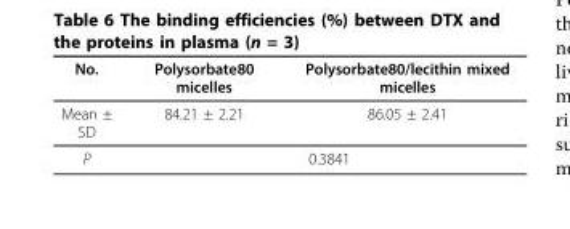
<table><thead><tr><td>No.</td><td>Polysorbate80 micelles</td><td>Polysorbate80/lecithin mixed micelles</td></tr></thead><tbody><tr><td>Mean ± SD</td><td>84.21 ± 2.21</td><td>86.05 ± 2.41</td></tr><tr><td>P</td><td colspan="2">0.3841</td></tr></tbody></table>